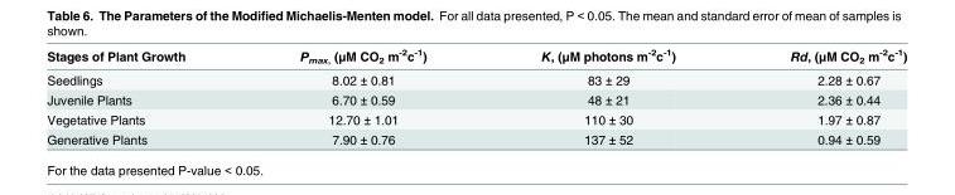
<table><thead><tr><td>Stages of Plant Growth</td><td>P<sub>max,</sub> (μM CO<sub>2</sub> m<sup>-2</sup>c<sup>-1</sup>)</td><td>K, (μM photons m<sup>-2</sup>c<sup>-1</sup>)</td><td>Rd, (μM CO<sub>2</sub> m<sup>-2</sup>c<sup>-1</sup>)</td></tr></thead><tbody><tr><td>Seedlings</td><td>8.02 ± 0.81</td><td>83 ± 29</td><td>2.28 ± 0.67</td></tr><tr><td>Juvenile Plants</td><td>6.70 ± 0.59</td><td>48 ± 21</td><td>2.36 ± 0.44</td></tr><tr><td>Vegetative Plants</td><td>12.70 ± 1.01</td><td>110 ± 30</td><td>1.97 ± 0.87</td></tr><tr><td>Generative Plants</td><td>7.90 ± 0.76</td><td>137 ± 52</td><td>0.94 ± 0.59</td></tr></tbody></table>